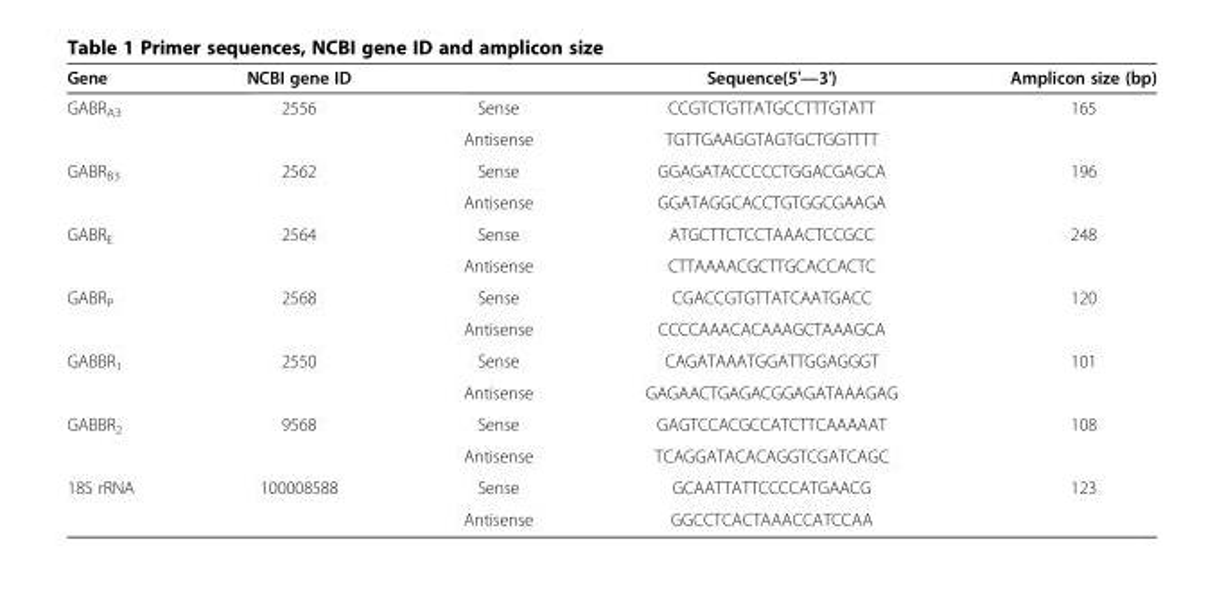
<table><thead><tr><td>Gene</td><td>NCBI gene ID</td><td></td><td>Sequence(5′—3′)</td><td>Amplicon size (bp)</td></tr></thead><tbody><tr><td rowspan="2">GABR<sub>A3</sub></td><td>2556</td><td>Sense</td><td>CCGTCTGTTATGCCTTTGTATT</td><td>165</td></tr><tr><td></td><td>Antisense</td><td>TGTTGAAGGTAGTGCTGGTTTT</td><td></td></tr><tr><td rowspan="2">GABR<sub>B3</sub></td><td>2562</td><td>Sense</td><td>GGAGATACCCCCTGGACGAGCA</td><td>196</td></tr><tr><td></td><td>Antisense</td><td>GGATAGGCACCTGTGGCGAAGA</td><td></td></tr><tr><td rowspan="2">GABR<sub>E</sub></td><td>2564</td><td>Sense</td><td>ATGCTTCTCCTAAACTCCGCC</td><td>248</td></tr><tr><td></td><td>Antisense</td><td>CTTAAAACGCTTGCACCACTC</td><td></td></tr><tr><td rowspan="2">GABR<sub>P</sub></td><td>2568</td><td>Sense</td><td>CGACCGTGTTATCAATGACC</td><td>120</td></tr><tr><td></td><td>Antisense</td><td>CCCCAAACACAAAGCTAAAGCA</td><td></td></tr><tr><td rowspan="2">GABBR<sub>1</sub></td><td>2550</td><td>Sense</td><td>CAGATAAATGGATTGGAGGGT</td><td>101</td></tr><tr><td></td><td>Antisense</td><td>GAGAACTGAGACGGAGATAAAGAG</td><td></td></tr><tr><td rowspan="2">GABBR<sub>2</sub></td><td>9568</td><td>Sense</td><td>GAGTCCACGCCATCTTCAAAAAT</td><td>108</td></tr><tr><td></td><td>Antisense</td><td>TCAGGATACACAGGTCGATCAGC</td><td></td></tr><tr><td rowspan="2">18S rRNA</td><td>100008588</td><td>Sense</td><td>GCAATTATTCCCCATGAACG</td><td>123</td></tr><tr><td></td><td>Antisense</td><td>GGCCTCACTAAACCATCCAA</td><td></td></tr></tbody></table>